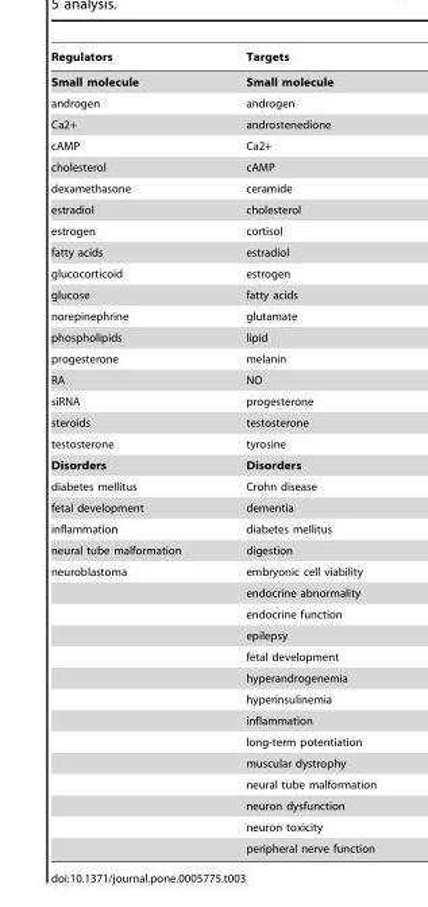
<table><thead><tr><td>Regulators</td><td>Targets</td></tr></thead><tbody><tr><td>Small molecule</td><td>Small molecule</td></tr><tr><td>androgen</td><td>androgen</td></tr><tr><td>Ca2+</td><td>androstenedione</td></tr><tr><td>cAMP</td><td>Ca2+</td></tr><tr><td>cholesterol</td><td>cAMP</td></tr><tr><td>dexamethasone</td><td>ceramide</td></tr><tr><td>estradiol</td><td>cholesterol</td></tr><tr><td>estrogen</td><td>cortisol</td></tr><tr><td>fatty acids</td><td>estradiol</td></tr><tr><td>glucocorticoid</td><td>estrogen</td></tr><tr><td>glucose</td><td>fatty acids</td></tr><tr><td>norepinephrine</td><td>glutamate</td></tr><tr><td>phospholipids</td><td>lipid</td></tr><tr><td>progesterone</td><td>melanin</td></tr><tr><td>RA</td><td>NO</td></tr><tr><td>siRNA</td><td>progesterone</td></tr><tr><td>steroids</td><td>testosterone</td></tr><tr><td>testosterone</td><td>tyrosine</td></tr><tr><td>Disorders</td><td>Disorders</td></tr><tr><td>diabetes mellitus</td><td>Crohn disease</td></tr><tr><td>fetal development</td><td>dementia</td></tr><tr><td>inflammation</td><td>diabetes mellitus</td></tr><tr><td>neural tube malformation</td><td>digestion</td></tr><tr><td rowspan="14">neuroblastoma</td><td>embryonic cell viability</td></tr><tr><td>endocrine abnormality</td></tr><tr><td>endocrine function</td></tr><tr><td>epilepsy</td></tr><tr><td>fetal development</td></tr><tr><td>hyperandrogenemia</td></tr><tr><td>hyperinsulinemia</td></tr><tr><td>inflammation</td></tr><tr><td>long-term potentiation</td></tr><tr><td>muscular dystrophy</td></tr><tr><td>neural tube malformation</td></tr><tr><td>neuron dysfunction</td></tr><tr><td>neuron toxicity</td></tr><tr><td>peripheral nerve function</td></tr></tbody></table>